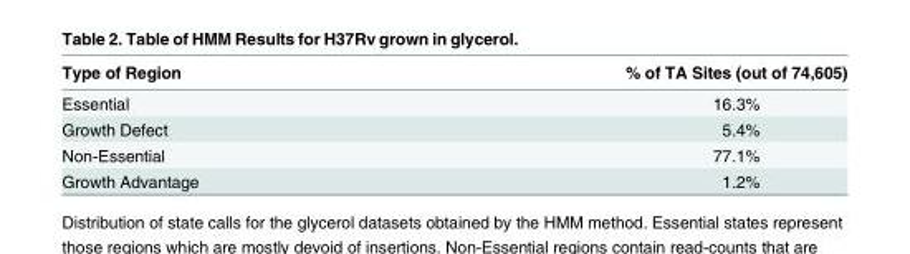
<table><thead><tr><td>Type of Region</td><td>% of TA Sites (out of 74,605)</td></tr></thead><tbody><tr><td>Essential</td><td>16.3%</td></tr><tr><td>Growth Defect</td><td>5.4%</td></tr><tr><td>Non-Essential</td><td>77.1%</td></tr><tr><td>Growth Advantage</td><td>1.2%</td></tr></tbody></table>